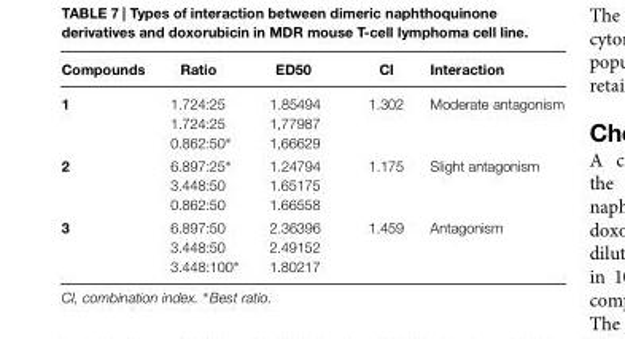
<table><thead><tr><td>Compounds</td><td>Ratio</td><td>ED50</td><td>CI</td><td>Interaction</td></tr></thead><tbody><tr><td>1</td><td>1.724:25 1.724:25 0.862:50∗</td><td>1.85494 1,77987 1,66629</td><td>1.302</td><td>Moderate antagonism</td></tr><tr><td>2</td><td>6.897:25∗ 3.448:50 0.862:50</td><td>1.24794 1.65175 1.66558</td><td>1.175</td><td>Slight antagonism</td></tr><tr><td>3</td><td>6.897:50 3.448:50 3.448:100∗</td><td>2.36396 2.49152 1.80217</td><td>1.459</td><td>Antagonism</td></tr></tbody></table>